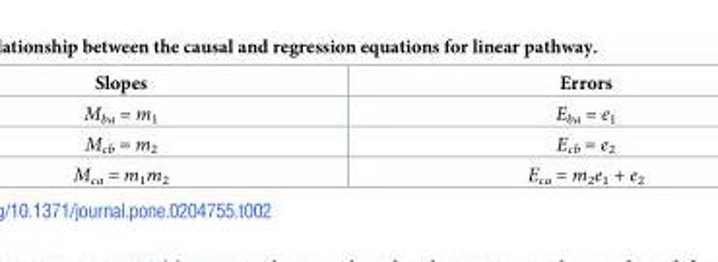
<table><thead><tr><td>Slopes</td><td>Errors</td></tr></thead><tbody><tr><td>M<sub>ba</sub> = m<sub>1</sub></td><td>E<sub>ba</sub> = e<sub>1</sub></td></tr><tr><td>M<sub>cb</sub> = m<sub>2</sub></td><td>E<sub>cb</sub> = e<sub>2</sub></td></tr><tr><td>M<sub>ca</sub> = m<sub>1</sub>m<sub>2</sub></td><td>E<sub>ca</sub> = m<sub>2</sub>e<sub>1</sub> + e<sub>2</sub></td></tr></tbody></table>